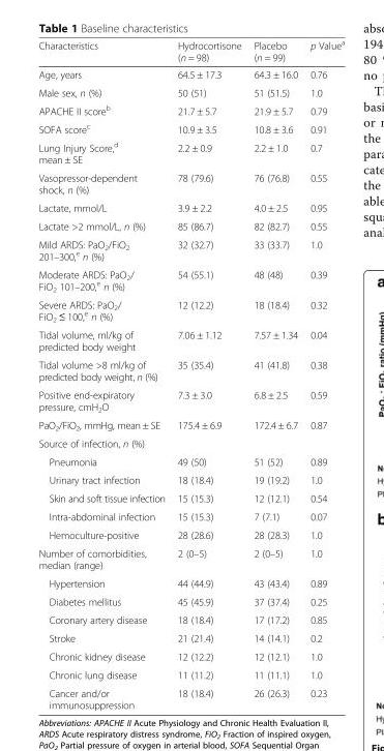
<table><thead><tr><td>Characteristics</td><td>Hydrocortisone (n = 98)</td><td>Placebo (n = 99)</td><td>p Value<sup>a</sup></td></tr></thead><tbody><tr><td>Age, years</td><td>64.5 ± 17.3</td><td>64.3 ± 16.0</td><td>0.76</td></tr><tr><td>Male sex, n (%)</td><td>50 (51)</td><td>51 (51.5)</td><td>1.0</td></tr><tr><td>APACHE II score<sup>b</sup></td><td>21.7 ± 5.7</td><td>21.9 ± 5.7</td><td>0.79</td></tr><tr><td>SOFA score<sup>c</sup></td><td>10.9 ± 3.5</td><td>10.8 ± 3.6</td><td>0.91</td></tr><tr><td>Lung Injury Score,<sup>d</sup> mean ± SE</td><td>2.2 ± 0.9</td><td>2.2 ± 1.0</td><td>0.7</td></tr><tr><td>Vasopressor-dependent shock, n (%)</td><td>78 (79.6)</td><td>76 (76.8)</td><td>0.55</td></tr><tr><td>Lactate, mmol/L</td><td>3.9 ± 2.2</td><td>4.0 ± 2.5</td><td>0.95</td></tr><tr><td>Lactate &gt;2 mmol/L, n (%)</td><td>85 (86.7)</td><td>82 (82.7)</td><td>0.55</td></tr><tr><td>Mild ARDS: PaO<sub>2</sub>/FiO<sub>2</sub> 201–300,<sup>e</sup> n (%)</td><td>32 (32.7)</td><td>33 (33.7)</td><td>1.0</td></tr><tr><td>Moderate ARDS: PaO<sub>2</sub>/ FiO<sub>2</sub> 101–200,<sup>e</sup> n (%)</td><td>54 (55.1)</td><td>48 (48)</td><td>0.39</td></tr><tr><td>Severe ARDS: PaO<sub>2</sub>/ FiO<sub>2</sub> ≤ 100,<sup>e</sup> n (%)</td><td>12 (12.2)</td><td>18 (18.4)</td><td>0.32</td></tr><tr><td>Tidal volume, ml/kg of predicted body weight</td><td>7.06 ± 1.12</td><td>7.57 ± 1.34</td><td>0.04</td></tr><tr><td>Tidal volume &gt;8 ml/kg of predicted body weight, n (%)</td><td>35 (35.4)</td><td>41 (41.8)</td><td>0.38</td></tr><tr><td>Positive end-expiratory pressure, cmH<sub>2</sub>O</td><td>7.3 ± 3.0</td><td>6.8 ± 2.5</td><td>0.59</td></tr><tr><td>PaO<sub>2</sub>/FiO<sub>2</sub>, mmHg, mean ± SE</td><td>175.4 ± 6.9</td><td>172.4 ± 6.7</td><td>0.87</td></tr><tr><td colspan="4">Source of infection, n (%)</td></tr><tr><td>Pneumonia</td><td>49 (50)</td><td>51 (52)</td><td>0.89</td></tr><tr><td>Urinary tract infection</td><td>18 (18.4)</td><td>19 (19.2)</td><td>1.0</td></tr><tr><td>Skin and soft tissue infection</td><td>15 (15.3)</td><td>12 (12.1)</td><td>0.54</td></tr><tr><td>Intra-abdominal infection</td><td>15 (15.3)</td><td>7 (7.1)</td><td>0.07</td></tr><tr><td>Hemoculture-positive</td><td>28 (28.6)</td><td>28 (28.3)</td><td>1.0</td></tr><tr><td>Number of comorbidities, median (range)</td><td>2 (0–5)</td><td>2 (0–5)</td><td>1.0</td></tr><tr><td>Hypertension</td><td>44 (44.9)</td><td>43 (43.4)</td><td>0.89</td></tr><tr><td>Diabetes mellitus</td><td>45 (45.9)</td><td>37 (37.4)</td><td>0.25</td></tr><tr><td>Coronary artery disease</td><td>18 (18.4)</td><td>17 (17.2)</td><td>0.85</td></tr><tr><td>Stroke</td><td>21 (21.4)</td><td>14 (14.1)</td><td>0.2</td></tr><tr><td>Chronic kidney disease</td><td>12 (12.2)</td><td>12 (12.1)</td><td>1.0</td></tr><tr><td>Chronic lung disease</td><td>11 (11.2)</td><td>11 (11.1)</td><td>1.0</td></tr><tr><td>Cancer and/or immunosuppression</td><td>18 (18.4)</td><td>26 (26.3)</td><td>0.23</td></tr></tbody></table>